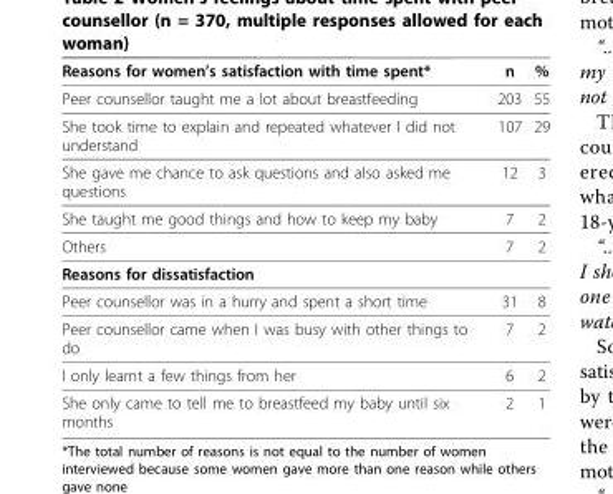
<table><thead><tr><td>Reasons for women’s satisfaction with time spent*</td><td>n</td><td>%</td></tr></thead><tbody><tr><td>Peer counsellor taught me a lot about breastfeeding</td><td>203</td><td>55</td></tr><tr><td>She took time to explain and repeated whatever I did not understand</td><td>107</td><td>29</td></tr><tr><td>She gave me chance to ask questions and also asked me questions</td><td>12</td><td>3</td></tr><tr><td>She taught me good things and how to keep my baby</td><td>7</td><td>2</td></tr><tr><td>Others</td><td>7</td><td>2</td></tr><tr><td colspan="3">Reasons for dissatisfaction</td></tr><tr><td>Peer counsellor was in a hurry and spent a short time</td><td>31</td><td>8</td></tr><tr><td>Peer counsellor came when I was busy with other things to do</td><td>7</td><td>2</td></tr><tr><td>I only learnt a few things from her</td><td>6</td><td>2</td></tr><tr><td>She only came to tell me to breastfeed my baby until six months</td><td>2</td><td>1</td></tr></tbody></table>